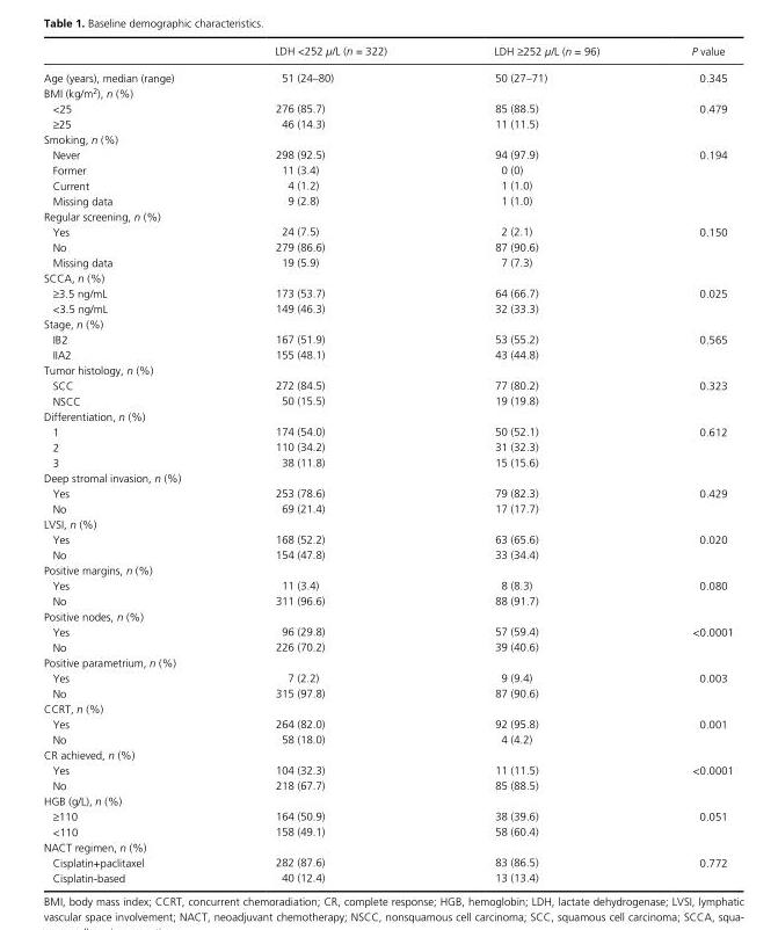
<table><thead><tr><td></td><td>LDH &lt;252 μ/L (n = 322)</td><td>LDH ≥252 μ/L (n = 96)</td><td>P value</td></tr></thead><tbody><tr><td>Age (years), median (range)</td><td>51 (24–80)</td><td>50 (27–71)</td><td>0.345</td></tr><tr><td colspan="4">BMI (kg/m<sup>2</sup>), n (%)</td></tr><tr><td>&lt;25</td><td>276 (85.7)</td><td>85 (88.5)</td><td rowspan="2">0.479</td></tr><tr><td>≥25</td><td>46 (14.3)</td><td>11 (11.5)</td></tr><tr><td colspan="4">Smoking, n (%)</td></tr><tr><td>Never</td><td>298 (92.5)</td><td>94 (97.9)</td><td rowspan="4">0.194</td></tr><tr><td>Former</td><td>11 (3.4)</td><td>0 (0)</td></tr><tr><td>Current</td><td>4 (1.2)</td><td>1 (1.0)</td></tr><tr><td>Missing data</td><td>9 (2.8)</td><td>1 (1.0)</td></tr><tr><td colspan="4">Regular screening, n (%)</td></tr><tr><td>Yes</td><td>24 (7.5)</td><td>2 (2.1)</td><td rowspan="3">0.150</td></tr><tr><td>No</td><td>279 (86.6)</td><td>87 (90.6)</td></tr><tr><td>Missing data</td><td>19 (5.9)</td><td>7 (7.3)</td></tr><tr><td colspan="4">SCCA, n (%)</td></tr><tr><td>≥3.5 ng/mL</td><td>173 (53.7)</td><td>64 (66.7)</td><td rowspan="2">0.025</td></tr><tr><td>&lt;3.5 ng/mL</td><td>149 (46.3)</td><td>32 (33.3)</td></tr><tr><td colspan="4">Stage, n (%)</td></tr><tr><td>IB2</td><td>167 (51.9)</td><td>53 (55.2)</td><td rowspan="2">0.565</td></tr><tr><td>IIA2</td><td>155 (48.1)</td><td>43 (44.8)</td></tr><tr><td colspan="4">Tumor histology, n (%)</td></tr><tr><td>SCC</td><td>272 (84.5)</td><td>77 (80.2)</td><td rowspan="2">0.323</td></tr><tr><td>NSCC</td><td>50 (15.5)</td><td>19 (19.8)</td></tr><tr><td colspan="4">Differentiation, n (%)</td></tr><tr><td>1</td><td>174 (54.0)</td><td>50 (52.1)</td><td rowspan="3">0.612</td></tr><tr><td>2</td><td>110 (34.2)</td><td>31 (32.3)</td></tr><tr><td>3</td><td>38 (11.8)</td><td>15 (15.6)</td></tr><tr><td colspan="4">Deep stromal invasion, n (%)</td></tr><tr><td>Yes</td><td>253 (78.6)</td><td>79 (82.3)</td><td rowspan="2">0.429</td></tr><tr><td>No</td><td>69 (21.4)</td><td>17 (17.7)</td></tr><tr><td colspan="4">LVSI, n (%)</td></tr><tr><td>Yes</td><td>168 (52.2)</td><td>63 (65.6)</td><td rowspan="2">0.020</td></tr><tr><td>No</td><td>154 (47.8)</td><td>33 (34.4)</td></tr><tr><td colspan="4">Positive margins, n (%)</td></tr><tr><td>Yes</td><td>11 (3.4)</td><td>8 (8.3)</td><td rowspan="2">0.080</td></tr><tr><td>No</td><td>311 (96.6)</td><td>88 (91.7)</td></tr><tr><td colspan="4">Positive nodes, n (%)</td></tr><tr><td>Yes</td><td>96 (29.8)</td><td>57 (59.4)</td><td rowspan="2">&lt;0.0001</td></tr><tr><td>No</td><td>226 (70.2)</td><td>39 (40.6)</td></tr><tr><td colspan="4">Positive parametrium, n (%)</td></tr><tr><td>Yes</td><td>7 (2.2)</td><td>9 (9.4)</td><td rowspan="2">0.003</td></tr><tr><td>No</td><td>315 (97.8)</td><td>87 (90.6)</td></tr><tr><td colspan="4">CCRT, n (%)</td></tr><tr><td>Yes</td><td>264 (82.0)</td><td>92 (95.8)</td><td rowspan="2">0.001</td></tr><tr><td>No</td><td>58 (18.0)</td><td>4 (4.2)</td></tr><tr><td colspan="4">CR achieved, n (%)</td></tr><tr><td>Yes</td><td>104 (32.3)</td><td>11 (11.5)</td><td rowspan="2">&lt;0.0001</td></tr><tr><td>No</td><td>218 (67.7)</td><td>85 (88.5)</td></tr><tr><td colspan="4">HGB (g/L), n (%)</td></tr><tr><td>≥110</td><td>164 (50.9)</td><td>38 (39.6)</td><td rowspan="2">0.051</td></tr><tr><td>&lt;110</td><td>158 (49.1)</td><td>58 (60.4)</td></tr><tr><td colspan="4">NACT regimen, n (%)</td></tr><tr><td>Cisplatin+paclitaxel</td><td>282 (87.6)</td><td>83 (86.5)</td><td rowspan="2">0.772</td></tr><tr><td>Cisplatin- based</td><td>40 (12.4)</td><td>13 (13.4)</td></tr></tbody></table>